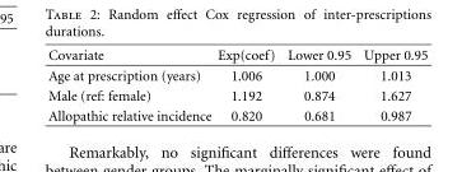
<table><thead><tr><td>Covariate</td><td>Exp(coef)</td><td>Lower 0.95</td><td>Upper 0.95</td></tr></thead><tbody><tr><td>Age at prescription (years)</td><td>1.006</td><td>1.000</td><td>1.013</td></tr><tr><td>Male (ref: female)</td><td>1.192</td><td>0.874</td><td>1.627</td></tr><tr><td>Allopathic relative incidence</td><td>0.820</td><td>0.681</td><td>0.987</td></tr></tbody></table>